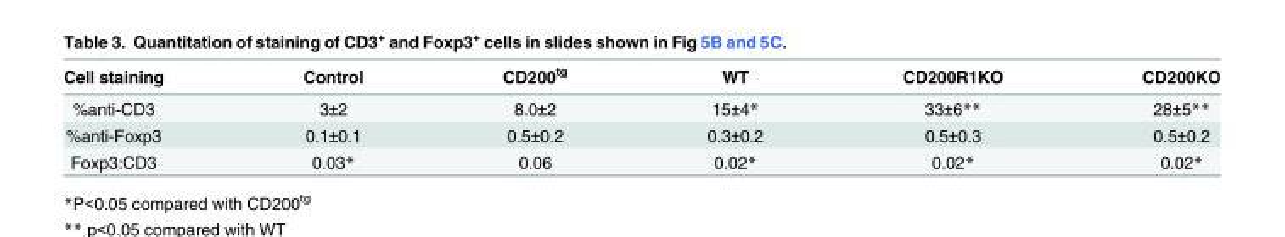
<table><thead><tr><td>Cell staining</td><td>Control</td><td>CD200<sup>tg</sup></td><td>WT</td><td>CD200R1KO</td><td>CD200KO</td></tr></thead><tbody><tr><td>%anti-CD3</td><td>3±2</td><td>8.0±2</td><td>15±4*</td><td>33±6**</td><td>28±5**</td></tr><tr><td>%anti-Foxp3</td><td>0.1±0.1</td><td>0.5±0.2</td><td>0.3±0.2</td><td>0.5±0.3</td><td>0.5±0.2</td></tr><tr><td>Foxp3:CD3</td><td>0.03*</td><td>0.06</td><td>0.02*</td><td>0.02*</td><td>0.02*</td></tr></tbody></table>